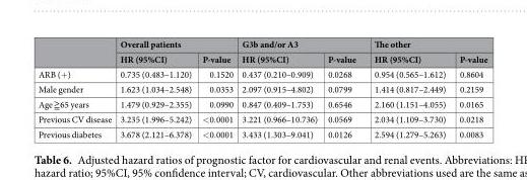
<table><thead><tr><td rowspan="2"></td><td colspan="2">Overall patients</td><td colspan="2">G3b and/or A3</td><td colspan="2">The other</td></tr><tr><td>HR (95%CI)</td><td>P-value</td><td>HR (95%CI)</td><td>P-value</td><td>HR (95%CI)</td><td>P-value</td></tr></thead><tbody><tr><td>ARB (+)</td><td>0.735 (0.483–1.120)</td><td>0.1520</td><td>0.437 (0.210–0.909)</td><td>0.0268</td><td>0.954 (0.565–1.612)</td><td>0.8604</td></tr><tr><td>Male gender</td><td>1.623 (1.034–2.548)</td><td>0.0353</td><td>2.097 (0.915–4.802)</td><td>0.0799</td><td>1.414 (0.817–2.449)</td><td>0.2159</td></tr><tr><td>Age ≧65 years</td><td>1.479 (0.929–2.355)</td><td>0.0990</td><td>0.847 (0.409–1.753)</td><td>0.6546</td><td>2.160 (1.151–4.055)</td><td>0.0165</td></tr><tr><td>Previous CV disease</td><td>3.235 (1.996–5.242)</td><td>&lt;0.0001</td><td>3.221 (0.966–10.736)</td><td>0.0569</td><td>2.034 (1.109–3.730)</td><td>0.0218</td></tr><tr><td>Previous diabetes</td><td>3.678 (2.121–6.378)</td><td>&lt;0.0001</td><td>3.433 (1.303–9.041)</td><td>0.0126</td><td>2.594 (1.279–5.263)</td><td>0.0083</td></tr></tbody></table>